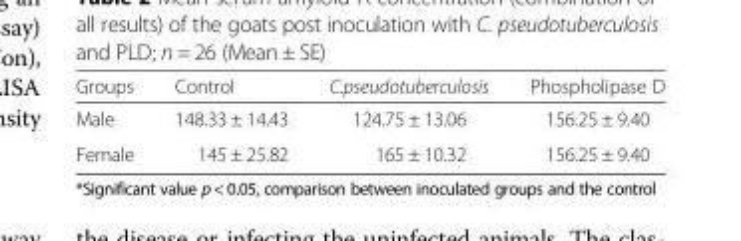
<table><thead><tr><td>Groups</td><td>Control</td><td>C.pseudotuberculosis</td><td>Phospholipase D</td></tr></thead><tbody><tr><td>Male</td><td>148.33 ± 14.43</td><td>124.75 ± 13.06</td><td>156.25 ± 9.40</td></tr><tr><td>Female</td><td>145 ± 25.82</td><td>165 ± 10.32</td><td>156.25 ± 9.40</td></tr></tbody></table>